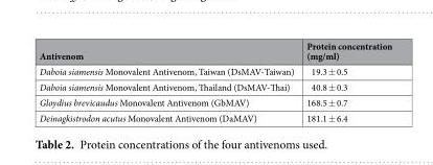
<table><thead><tr><td>Antivenom</td><td>Protein concentration (mg/ml)</td></tr></thead><tbody><tr><td>Daboia siamensis Monovalent Antivenom, Taiwan (DsMAV-Taiwan)</td><td>19.3 ± 0.5</td></tr><tr><td>Daboia siamensis Monovalent Antivenom, Thailand (DsMAV-Thai)</td><td>40.8 ± 0.3</td></tr><tr><td>Gloydius brevicaudus Monovalent Antivenom (GbMAV)</td><td>168.5 ± 0.7</td></tr><tr><td>Deinagkistrodon acutus Monovalent Antivenom (DaMAV)</td><td>181.1 ± 6.4</td></tr></tbody></table>